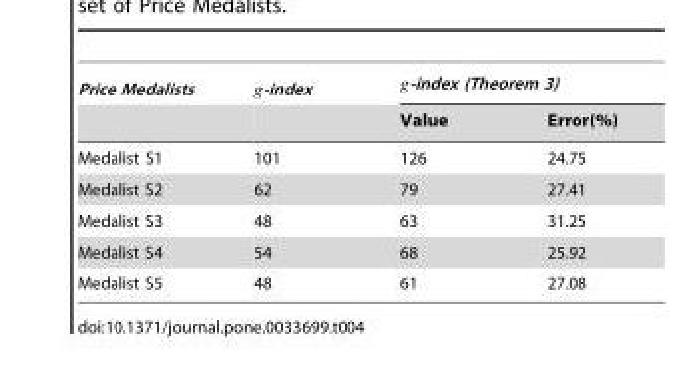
<table><thead><tr><td rowspan="2">Price Medalists</td><td rowspan="2">g-index</td><td colspan="2">g-index (Theorem 3)</td></tr><tr><td>Value</td><td>Error(%)</td></tr></thead><tbody><tr><td>Medalist S1</td><td>101</td><td>126</td><td>24.75</td></tr><tr><td>Medalist S2</td><td>62</td><td>79</td><td>27.41</td></tr><tr><td>Medalist S3</td><td>48</td><td>63</td><td>31.25</td></tr><tr><td>Medalist S4</td><td>54</td><td>68</td><td>25.92</td></tr><tr><td>Medalist S5</td><td>48</td><td>61</td><td>27.08</td></tr></tbody></table>